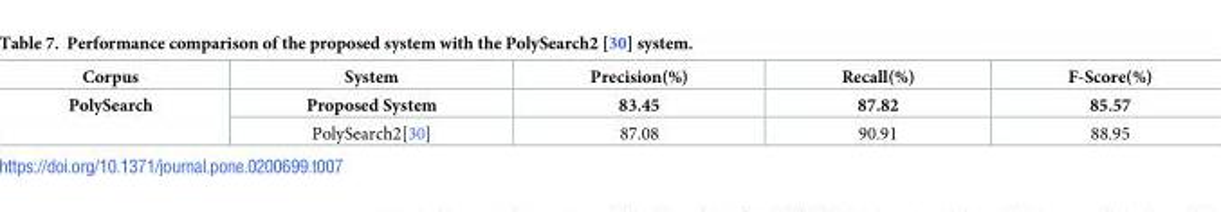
<table><thead><tr><td>Corpus</td><td>System</td><td>Precision(%)</td><td>Recall(%)</td><td>F-Score(%)</td></tr></thead><tbody><tr><td rowspan="2">PolySearch</td><td>Proposed System</td><td>83.45</td><td>87.82</td><td>85.57</td></tr><tr><td>PolySearch2[30]</td><td>87.08</td><td>90.91</td><td>88.95</td></tr></tbody></table>